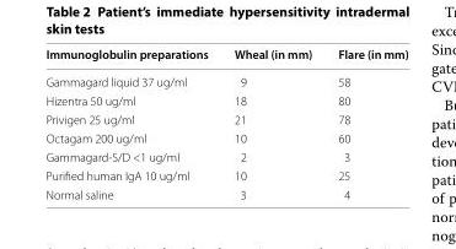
<table><thead><tr><td>Immunoglobulin preparations</td><td>Wheal (in mm)</td><td>Flare (in mm)</td></tr></thead><tbody><tr><td>Gammagard liquid 37 ug/ml</td><td>9</td><td>58</td></tr><tr><td>Hizentra 50 ug/ml</td><td>18</td><td>80</td></tr><tr><td>Privigen 25 ug/ml</td><td>21</td><td>78</td></tr><tr><td>Octagam 200 ug/ml</td><td>10</td><td>60</td></tr><tr><td>Gammagard-S/D &lt;1 ug/ml</td><td>2</td><td>3</td></tr><tr><td>Purified human IgA 10 ug/ml</td><td>10</td><td>25</td></tr><tr><td>Normal saline</td><td>3</td><td>4</td></tr></tbody></table>